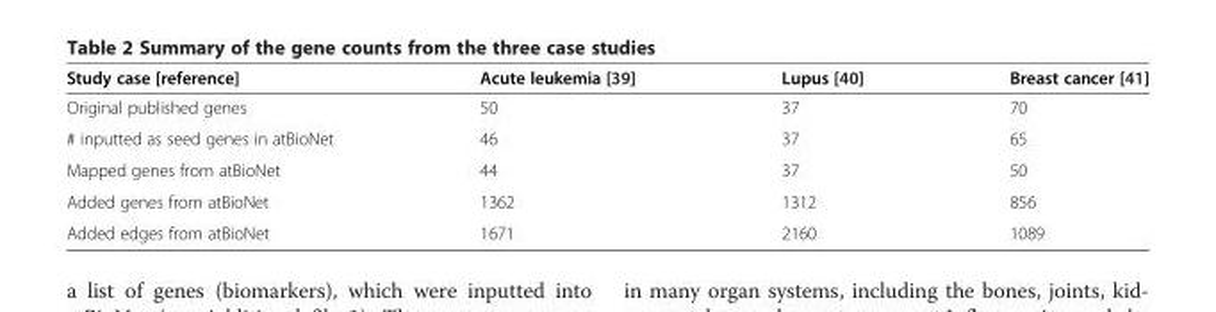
<table><thead><tr><td>Study case [reference]</td><td>Acute leukemia [39]</td><td>Lupus [40]</td><td>Breast cancer [41]</td></tr></thead><tbody><tr><td>Original published genes</td><td>50</td><td>37</td><td>70</td></tr><tr><td># inputted as seed genes in atBioNet</td><td>46</td><td>37</td><td>65</td></tr><tr><td>Mapped genes from atBioNet</td><td>44</td><td>37</td><td>50</td></tr><tr><td>Added genes from atBioNet</td><td>1362</td><td>1312</td><td>856</td></tr><tr><td>Added edges from atBioNet</td><td>1671</td><td>2160</td><td>1089</td></tr></tbody></table>